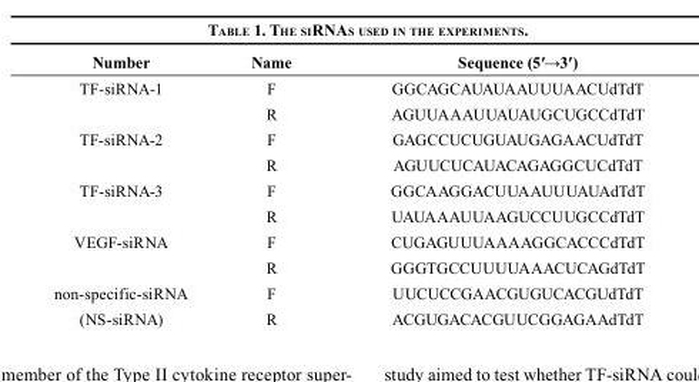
<table><thead><tr><td>Number</td><td>Name</td><td>Sequence (5′→3′)</td></tr></thead><tbody><tr><td rowspan="2">TF-siRNA-1</td><td>F</td><td>GGCAGCAUAUAAUUUAACUdTdT</td></tr><tr><td>R</td><td>AGUUAAAUUAUAUGCUGCCdTdT</td></tr><tr><td rowspan="2">TF-siRNA-2</td><td>F</td><td>GAGCCUCUGUAUGAGAACUdTdT</td></tr><tr><td>R</td><td>AGUUCUCAUACAGAGGCUCdTdT</td></tr><tr><td rowspan="2">TF-siRNA-3</td><td>F</td><td>GGCAAGGACUUAAUUUAUAdTdT</td></tr><tr><td>R</td><td>UAUAAAUUAAGUCCUUGCCdTdT</td></tr><tr><td rowspan="2">VEGF-siRNA</td><td>F</td><td>CUGAGUUUAAAAGGCACCCdTdT</td></tr><tr><td>R</td><td>GGGTGCCUUUUAAACUCAGdTdT</td></tr><tr><td>non-specific-siRNA</td><td>F</td><td>UUCUCCGAACGUGUCACGUdTdT</td></tr><tr><td>(NS-siRNA)</td><td>R</td><td>ACGUGACACGUUCGGAGAAdTdT</td></tr></tbody></table>